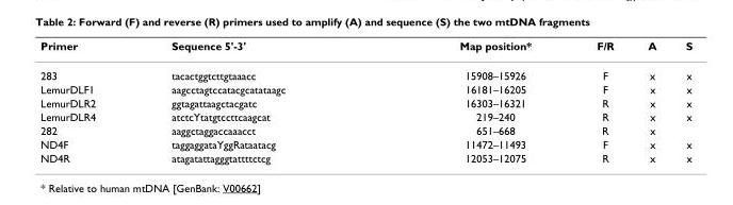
<table><thead><tr><td>Primer</td><td>Sequence 5&#x27;-3&#x27;</td><td>Map position*</td><td>F/R</td><td>A</td><td>S</td></tr></thead><tbody><tr><td>283</td><td>tacactggtcttgtaaacc</td><td>15908–15926</td><td>F</td><td>x</td><td>x</td></tr><tr><td>LemurDLF1</td><td>aagcctagtccatacgcatataagc</td><td>16181–16205</td><td>F</td><td>x</td><td>x</td></tr><tr><td>LemurDLR2</td><td>ggtagattaagctacgatc</td><td>16303–16321</td><td>R</td><td>x</td><td>x</td></tr><tr><td>LemurDLR4</td><td>atctcYtatgtccttcaagcat</td><td>219–240</td><td>R</td><td>x</td><td>x</td></tr><tr><td>282</td><td>aaggctaggaccaaacct</td><td>651–668</td><td>R</td><td>x</td><td></td></tr><tr><td>ND4F</td><td>taggaggataYggRataatacg</td><td>11472–11493</td><td>F</td><td>x</td><td>x</td></tr><tr><td>ND4R</td><td>atagatattagggtattttctcg</td><td>12053–12075</td><td>R</td><td>x</td><td>x</td></tr></tbody></table>